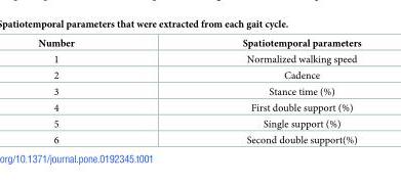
<table><thead><tr><td>Number</td><td>Spatiotemporal parameters</td></tr></thead><tbody><tr><td>1</td><td>Normalized walking speed</td></tr><tr><td>2</td><td>Cadence</td></tr><tr><td>3</td><td>Stance time (%)</td></tr><tr><td>4</td><td>First double support (%)</td></tr><tr><td>5</td><td>Single support (%)</td></tr><tr><td>6</td><td>Second double support(%)</td></tr></tbody></table>